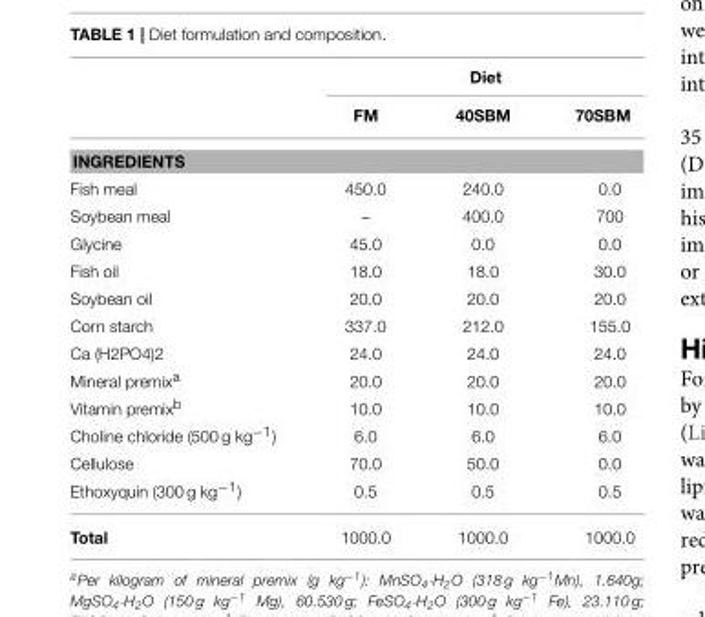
<table><thead><tr><td rowspan="2"></td><td colspan="3">Diet</td></tr><tr><td>FM</td><td>40SBM</td><td>70SBM</td></tr></thead><tbody><tr><td colspan="4">INGREDIENTS</td></tr><tr><td>Fish meal</td><td>450.0</td><td>240.0</td><td>0.0</td></tr><tr><td>Soybean meal</td><td>–</td><td>400.0</td><td>700</td></tr><tr><td>Glycine</td><td>45.0</td><td>0.0</td><td>0.0</td></tr><tr><td>Fish oil</td><td>18.0</td><td>18.0</td><td>30.0</td></tr><tr><td>Soybean oil</td><td>20.0</td><td>20.0</td><td>20.0</td></tr><tr><td>Corn starch</td><td>337.0</td><td>212.0</td><td>155.0</td></tr><tr><td>Ca (H2PO4)2</td><td>24.0</td><td>24.0</td><td>24.0</td></tr><tr><td>Mineral premix<sup>a</sup></td><td>20.0</td><td>20.0</td><td>20.0</td></tr><tr><td>Vitamin premix<sup>b</sup></td><td>10.0</td><td>10.0</td><td>10.0</td></tr><tr><td>Choline chloride (500 g kg<sup>−1</sup>)</td><td>6.0</td><td>6.0</td><td>6.0</td></tr><tr><td>Cellulose</td><td>70.0</td><td>50.0</td><td>0.0</td></tr><tr><td>Ethoxyquin (300 g kg<sup>−1</sup>)</td><td>0.5</td><td>0.5</td><td>0.5</td></tr><tr><td>Total</td><td>1000.0</td><td>1000.0</td><td>1000.0</td></tr></tbody></table>